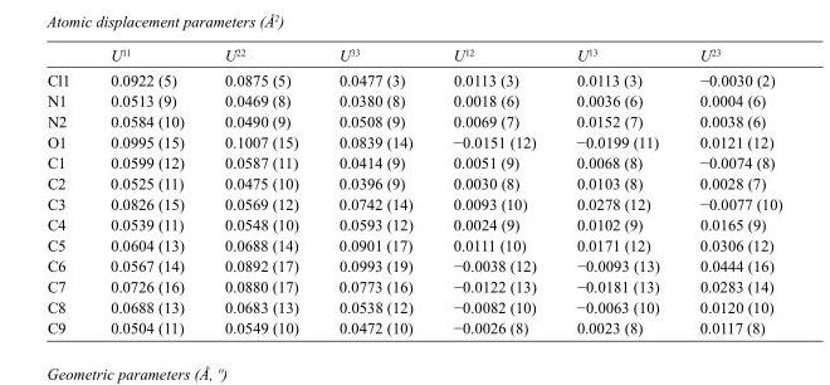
<table><thead><tr><td></td><td>U<sup>11</sup></td><td>U<sup>22</sup></td><td>U<sup>33</sup></td><td>U<sup>12</sup></td><td>U<sup>13</sup></td><td>U<sup>23</sup></td></tr></thead><tbody><tr><td>Cl1</td><td>0.0922 (5)</td><td>0.0875 (5)</td><td>0.0477 (3)</td><td>0.0113 (3)</td><td>0.0113 (3)</td><td>−0.0030 (2)</td></tr><tr><td>N1</td><td>0.0513 (9)</td><td>0.0469 (8)</td><td>0.0380 (8)</td><td>0.0018 (6)</td><td>0.0036 (6)</td><td>0.0004 (6)</td></tr><tr><td>N2</td><td>0.0584 (10)</td><td>0.0490 (9)</td><td>0.0508 (9)</td><td>0.0069 (7)</td><td>0.0152 (7)</td><td>0.0038 (6)</td></tr><tr><td>O1</td><td>0.0995 (15)</td><td>0.1007 (15)</td><td>0.0839 (14)</td><td>−0.0151 (12)</td><td>−0.0199 (11)</td><td>0.0121 (12)</td></tr><tr><td>C1</td><td>0.0599 (12)</td><td>0.0587 (11)</td><td>0.0414 (9)</td><td>0.0051 (9)</td><td>0.0068 (8)</td><td>−0.0074 (8)</td></tr><tr><td>C2</td><td>0.0525 (11)</td><td>0.0475 (10)</td><td>0.0396 (9)</td><td>0.0030 (8)</td><td>0.0103 (8)</td><td>0.0028 (7)</td></tr><tr><td>C3</td><td>0.0826 (15)</td><td>0.0569 (12)</td><td>0.0742 (14)</td><td>0.0093 (10)</td><td>0.0278 (12)</td><td>−0.0077 (10)</td></tr><tr><td>C4</td><td>0.0539 (11)</td><td>0.0548 (10)</td><td>0.0593 (12)</td><td>0.0024 (9)</td><td>0.0102 (9)</td><td>0.0165 (9)</td></tr><tr><td>C5</td><td>0.0604 (13)</td><td>0.0688 (14)</td><td>0.0901 (17)</td><td>0.0111 (10)</td><td>0.0171 (12)</td><td>0.0306 (12)</td></tr><tr><td>C6</td><td>0.0567 (14)</td><td>0.0892 (17)</td><td>0.0993 (19)</td><td>−0.0038 (12)</td><td>−0.0093 (13)</td><td>0.0444 (16)</td></tr><tr><td>C7</td><td>0.0726 (16)</td><td>0.0880 (17)</td><td>0.0773 (16)</td><td>−0.0122 (13)</td><td>−0.0181 (13)</td><td>0.0283 (14)</td></tr><tr><td>C8</td><td>0.0688 (13)</td><td>0.0683 (13)</td><td>0.0538 (12)</td><td>−0.0082 (10)</td><td>−0.0063 (10)</td><td>0.0120 (10)</td></tr><tr><td>C9</td><td>0.0504 (11)</td><td>0.0549 (10)</td><td>0.0472 (10)</td><td>−0.0026 (8)</td><td>0.0023 (8)</td><td>0.0117 (8)</td></tr></tbody></table>